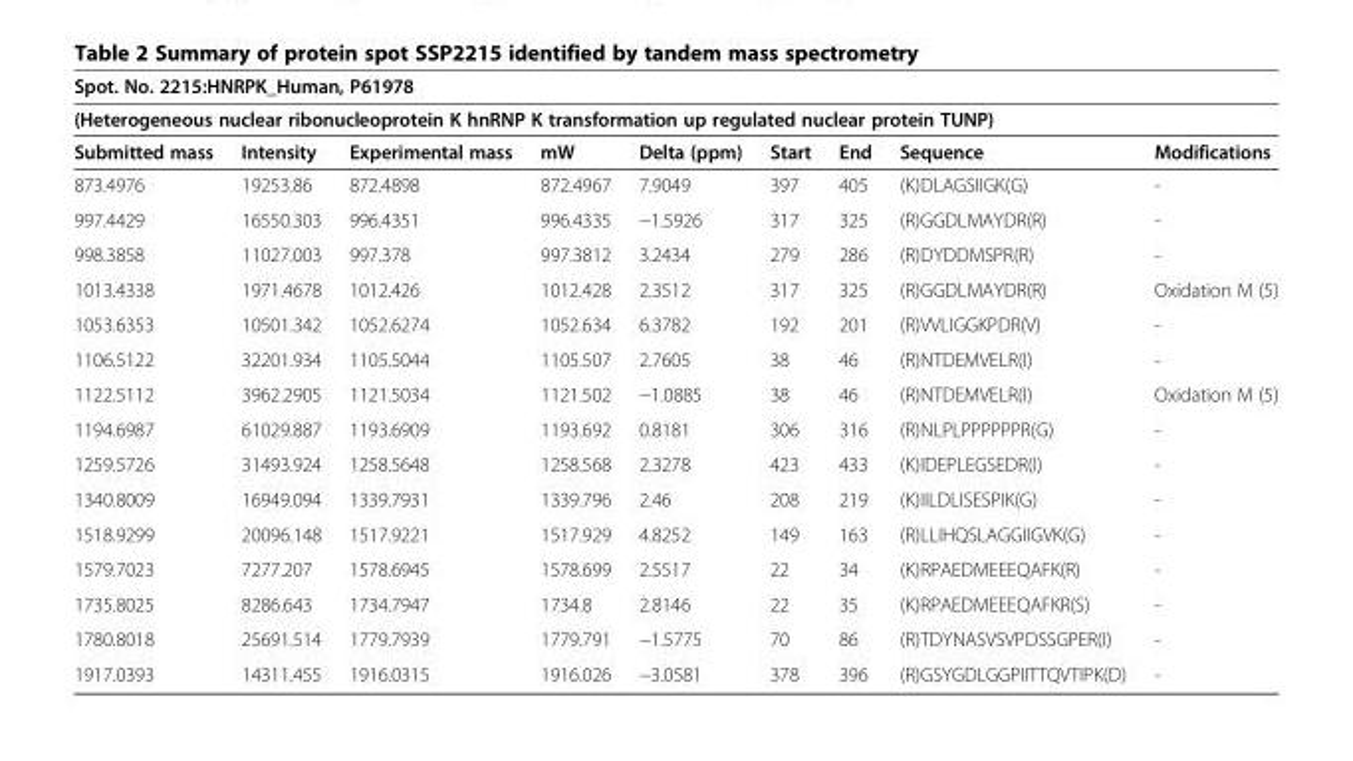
<table><thead><tr><td rowspan="2" colspan="9">Spot. No. 2215:HNRPK_Human, P61978 (Heterogeneous nuclear ribonucleoprotein K hnRNP K transformation up regulated nuclear protein TUNP)</td></tr><tr></tr><tr><td>Submitted mass</td><td>Intensity</td><td>Experimental mass</td><td>mW</td><td>Delta (ppm)</td><td>Start</td><td>End</td><td>Sequence</td><td>Modifications</td></tr></thead><tbody><tr><td>873.4976</td><td>19253.86</td><td>872.4898</td><td>872.4967</td><td>7.9049</td><td>397</td><td>405</td><td>(K)DLAGSIIGK(G)</td><td>-</td></tr><tr><td>997.4429</td><td>16550.303</td><td>996.4351</td><td>996.4335</td><td>−1.5926</td><td>317</td><td>325</td><td>(R)GGDLMAYDR(R)</td><td>-</td></tr><tr><td>998.3858</td><td>11027.003</td><td>997.378</td><td>997.3812</td><td>3.2434</td><td>279</td><td>286</td><td>(R)DYDDMSPR(R)</td><td>-</td></tr><tr><td>1013.4338</td><td>1971.4678</td><td>1012.426</td><td>1012.428</td><td>2.3512</td><td>317</td><td>325</td><td>(R)GGDLMAYDR(R)</td><td>Oxidation M (5)</td></tr><tr><td>1053.6353</td><td>10501.342</td><td>1052.6274</td><td>1052.634</td><td>6.3782</td><td>192</td><td>201</td><td>(R)VVLIGGKPDR(V)</td><td>-</td></tr><tr><td>1106.5122</td><td>32201.934</td><td>1105.5044</td><td>1105.507</td><td>2.7605</td><td>38</td><td>46</td><td>(R)NTDEMVELR(I)</td><td>-</td></tr><tr><td>1122.5112</td><td>3962.2905</td><td>1121.5034</td><td>1121.502</td><td>−1.0885</td><td>38</td><td>46</td><td>(R)NTDEMVELR(I)</td><td>Oxidation M (5)</td></tr><tr><td>1194.6987</td><td>61029.887</td><td>1193.6909</td><td>1193.692</td><td>0.8181</td><td>306</td><td>316</td><td>(R)NLPLPPPPPPR(G)</td><td>-</td></tr><tr><td>1259.5726</td><td>31493.924</td><td>1258.5648</td><td>1258.568</td><td>2.3278</td><td>423</td><td>433</td><td>(K)IDEPLEGSEDR(I)</td><td>-</td></tr><tr><td>1340.8009</td><td>16949.094</td><td>1339.7931</td><td>1339.796</td><td>2.46</td><td>208</td><td>219</td><td>(K)IILDLISESPIK(G)</td><td>-</td></tr><tr><td>1518.9299</td><td>20096.148</td><td>1517.9221</td><td>1517.929</td><td>4.8252</td><td>149</td><td>163</td><td>(R)LLIHQSLAGGIIGVK(G)</td><td>-</td></tr><tr><td>1579.7023</td><td>7277.207</td><td>1578.6945</td><td>1578.699</td><td>2.5517</td><td>22</td><td>34</td><td>(K)RPAEDMEEEQAFK(R)</td><td>-</td></tr><tr><td>1735.8025</td><td>8286.643</td><td>1734.7947</td><td>1734.8</td><td>2.8146</td><td>22</td><td>35</td><td>(K)RPAEDMEEEQAFKR(S)</td><td>-</td></tr><tr><td>1780.8018</td><td>25691.514</td><td>1779.7939</td><td>1779.791</td><td>−1.5775</td><td>70</td><td>86</td><td>(R)TDYNASVSVPDSSGPER(I)</td><td>-</td></tr><tr><td>1917.0393</td><td>14311.455</td><td>1916.0315</td><td>1916.026</td><td>−3.0581</td><td>378</td><td>396</td><td>(R)GSYGDLGGPIITTQVTIPK(D)</td><td>-</td></tr></tbody></table>